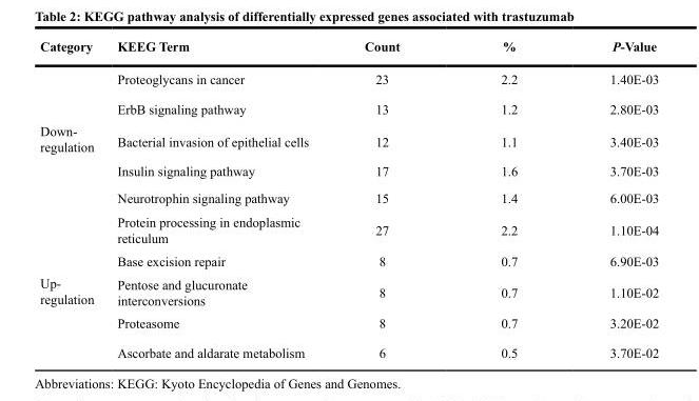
<table><thead><tr><td>Category</td><td>KEEG Term</td><td>Count</td><td>%</td><td>P-Value</td></tr></thead><tbody><tr><td rowspan="5">Down- regulation</td><td>Proteoglycans in cancer</td><td>23</td><td>2.2</td><td>1.40E-03</td></tr><tr><td>ErbB signaling pathway</td><td>13</td><td>1.2</td><td>2.80E-03</td></tr><tr><td>Bacterial invasion of epithelial cells</td><td>12</td><td>1.1</td><td>3.40E-03</td></tr><tr><td>Insulin signaling pathway</td><td>17</td><td>1.6</td><td>3.70E-03</td></tr><tr><td>Neurotrophin signaling pathway</td><td>15</td><td>1.4</td><td>6.00E-03</td></tr><tr><td rowspan="5">Up- regulation</td><td>Protein processing in endoplasmic reticulum</td><td>27</td><td>2.2</td><td>1.10E-04</td></tr><tr><td>Base excision repair</td><td>8</td><td>0.7</td><td>6.90E-03</td></tr><tr><td>Pentose and glucuronate interconversions</td><td>8</td><td>0.7</td><td>1.10E-02</td></tr><tr><td>Proteasome</td><td>8</td><td>0.7</td><td>3.20E-02</td></tr><tr><td>Ascorbate and aldarate metabolism</td><td>6</td><td>0.5</td><td>3.70E-02</td></tr></tbody></table>